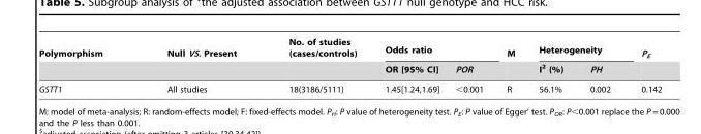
<table><thead><tr><td rowspan="2">Polymorphism</td><td rowspan="2">Null VS. Present</td><td rowspan="2">No. of studies (cases/controls)</td><td colspan="2">Odds ratio</td><td rowspan="2">M</td><td colspan="2">Heterogeneity</td><td rowspan="2">P<sub>E</sub></td></tr><tr><td>OR [95% CI]</td><td>POR</td><td>I<sup>2</sup> (%)</td><td>PH</td></tr></thead><tbody><tr><td>GSTT1</td><td>All studies</td><td>18(3186/5111)</td><td>1.45[1.24,1.69]</td><td>&lt;0.001</td><td>R</td><td>56.1%</td><td>0.002</td><td>0.142</td></tr></tbody></table>